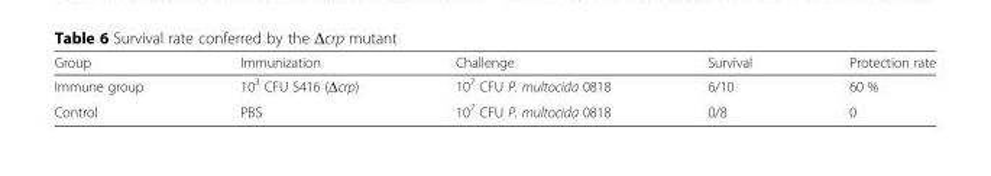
<table><thead><tr><td>Group</td><td>Immunization</td><td>Challenge</td><td>Survival</td><td>Protection rate</td></tr></thead><tbody><tr><td>Immune group</td><td>10<sup>3</sup> CFU S416 (Δcrp)</td><td>10<sup>7</sup> CFU P. multocida 0818</td><td>6/10</td><td>60 %</td></tr><tr><td>Control</td><td>PBS</td><td>10<sup>7</sup> CFU P. multocida 0818</td><td>0/8</td><td>0</td></tr></tbody></table>